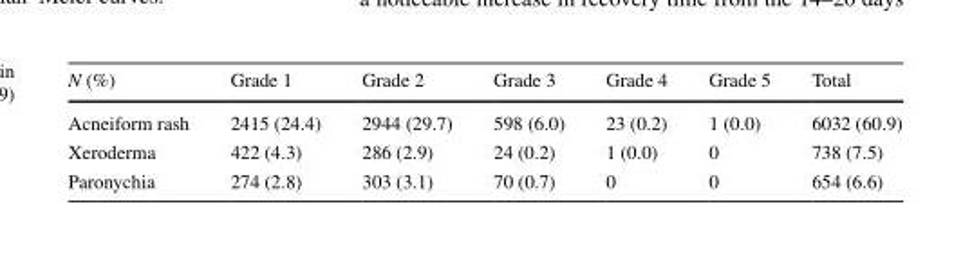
<table><thead><tr><td>N (%)</td><td>Grade 1</td><td>Grade 2</td><td>Grade 3</td><td>Grade 4</td><td>Grade 5</td><td>Total</td></tr></thead><tbody><tr><td>Acneiform rash</td><td>2415 (24.4)</td><td>2944 (29.7)</td><td>598 (6.0)</td><td>23 (0.2)</td><td>1 (0.0)</td><td>6032 (60.9)</td></tr><tr><td>Xeroderma</td><td>422 (4.3)</td><td>286 (2.9)</td><td>24 (0.2)</td><td>1 (0.0)</td><td>0</td><td>738 (7.5)</td></tr><tr><td>Paronychia</td><td>274 (2.8)</td><td>303 (3.1)</td><td>70 (0.7)</td><td>0</td><td>0</td><td>654 (6.6)</td></tr></tbody></table>